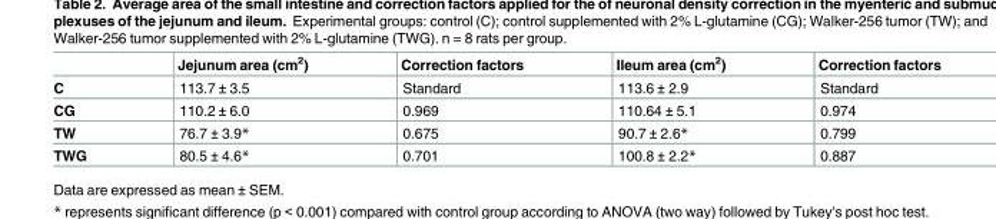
<table><thead><tr><td></td><td>Jejunum area (cm<sup>2</sup>)</td><td>Correction factors</td><td>Ileum area (cm<sup>2</sup>)</td><td>Correction factors</td></tr></thead><tbody><tr><td>C</td><td>113.7 ± 3.5</td><td>Standard</td><td>113.6 ± 2.9</td><td>Standard</td></tr><tr><td>CG</td><td>110.2 ± 6.0</td><td>0.969</td><td>110.64 ± 5.1</td><td>0.974</td></tr><tr><td>TW</td><td>76.7 ± 3.9*</td><td>0.675</td><td>90.7 ± 2.6*</td><td>0.799</td></tr><tr><td>TWG</td><td>80.5 ± 4.6*</td><td>0.701</td><td>100.8 ± 2.2*</td><td>0.887</td></tr></tbody></table>